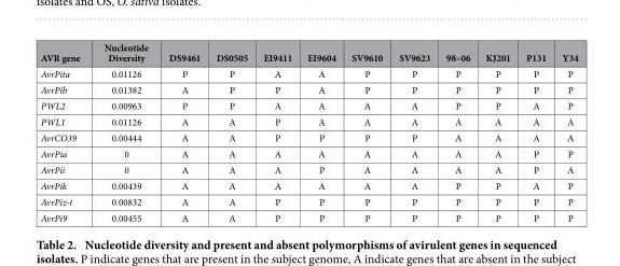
<table><thead><tr><td>AVR gene</td><td>Nucleotide Diversity</td><td>DS9461</td><td>DS0505</td><td>EI9411</td><td>EI9604</td><td>SV9610</td><td>SV9623</td><td>98–06</td><td>KJ201</td><td>P131</td><td>Y34</td></tr></thead><tbody><tr><td>AvrPita</td><td>0.01126</td><td>P</td><td>P</td><td>A</td><td>A</td><td>P</td><td>P</td><td>P</td><td>P</td><td>P</td><td>P</td></tr><tr><td>AvrPib</td><td>0.01382</td><td>A</td><td>P</td><td>P</td><td>A</td><td>P</td><td>P</td><td>P</td><td>P</td><td>P</td><td>P</td></tr><tr><td>PWL2</td><td>0.00963</td><td>P</td><td>P</td><td>A</td><td>A</td><td>A</td><td>A</td><td>P</td><td>P</td><td>A</td><td>P</td></tr><tr><td>PWL1</td><td>0.01126</td><td>A</td><td>A</td><td>P</td><td>A</td><td>A</td><td>A</td><td>A</td><td>A</td><td>A</td><td>A</td></tr><tr><td>AvrCO39</td><td>0.00444</td><td>A</td><td>A</td><td>P</td><td>P</td><td>P</td><td>P</td><td>A</td><td>A</td><td>A</td><td>A</td></tr><tr><td>AvrPia</td><td>0</td><td>A</td><td>A</td><td>A</td><td>A</td><td>A</td><td>A</td><td>A</td><td>A</td><td>P</td><td>P</td></tr><tr><td>AvrPii</td><td>0</td><td>A</td><td>A</td><td>A</td><td>P</td><td>A</td><td>A</td><td>A</td><td>A</td><td>P</td><td>A</td></tr><tr><td>AvrPik</td><td>0.00439</td><td>A</td><td>A</td><td>A</td><td>A</td><td>A</td><td>A</td><td>P</td><td>P</td><td>A</td><td>P</td></tr><tr><td>AvrPiz-t</td><td>0.00832</td><td>A</td><td>A</td><td>P</td><td>P</td><td>P</td><td>P</td><td>P</td><td>P</td><td>P</td><td>P</td></tr><tr><td>AvrPi9</td><td>0.00455</td><td>A</td><td>A</td><td>P</td><td>P</td><td>P</td><td>P</td><td>P</td><td>P</td><td>P</td><td>P</td></tr></tbody></table>